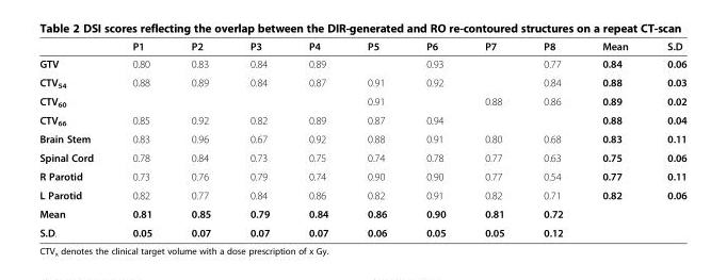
<table><thead><tr><td></td><td>P1</td><td>P2</td><td>P3</td><td>P4</td><td>P5</td><td>P6</td><td>P7</td><td>P8</td><td>Mean</td><td>S.D</td></tr></thead><tbody><tr><td>GTV</td><td>0.80</td><td>0.83</td><td>0.84</td><td>0.89</td><td></td><td>0.93</td><td></td><td>0.77</td><td>0.84</td><td>0.06</td></tr><tr><td>CTV<sub>54</sub></td><td>0.88</td><td>0.89</td><td>0.84</td><td>0.87</td><td>0.91</td><td>0.92</td><td></td><td>0.84</td><td>0.88</td><td>0.03</td></tr><tr><td>CTV<sub>60</sub></td><td></td><td></td><td></td><td></td><td>0.91</td><td></td><td>0.88</td><td>0.86</td><td>0.89</td><td>0.02</td></tr><tr><td>CTV<sub>66</sub></td><td>0.85</td><td>0.92</td><td>0.82</td><td>0.89</td><td>0.87</td><td>0.94</td><td></td><td></td><td>0.88</td><td>0.04</td></tr><tr><td>Brain Stem</td><td>0.83</td><td>0.96</td><td>0.67</td><td>0.92</td><td>0.88</td><td>0.91</td><td>0.80</td><td>0.68</td><td>0.83</td><td>0.11</td></tr><tr><td>Spinal Cord</td><td>0.78</td><td>0.84</td><td>0.73</td><td>0.75</td><td>0.74</td><td>0.78</td><td>0.77</td><td>0.63</td><td>0.75</td><td>0.06</td></tr><tr><td>R Parotid</td><td>0.73</td><td>0.76</td><td>0.79</td><td>0.74</td><td>0.90</td><td>0.90</td><td>0.77</td><td>0.54</td><td>0.77</td><td>0.11</td></tr><tr><td>L Parotid</td><td>0.82</td><td>0.77</td><td>0.84</td><td>0.86</td><td>0.82</td><td>0.91</td><td>0.82</td><td>0.71</td><td>0.82</td><td>0.06</td></tr><tr><td>Mean</td><td>0.81</td><td>0.85</td><td>0.79</td><td>0.84</td><td>0.86</td><td>0.90</td><td>0.81</td><td>0.72</td><td></td><td></td></tr><tr><td>S.D.</td><td>0.05</td><td>0.07</td><td>0.07</td><td>0.07</td><td>0.06</td><td>0.05</td><td>0.05</td><td>0.12</td><td></td><td></td></tr></tbody></table>